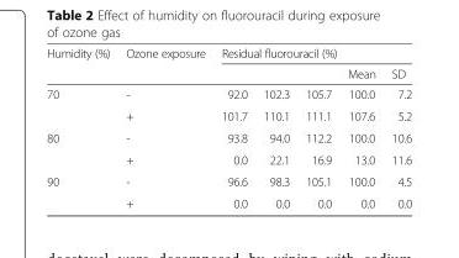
<table><thead><tr><td rowspan="2">Humidity (%)</td><td rowspan="2">Ozone exposure</td><td colspan="5">Residual fluorouracil (%)</td></tr><tr><td></td><td></td><td></td><td>Mean</td><td>SD</td></tr></thead><tbody><tr><td rowspan="2">70</td><td>-</td><td>92.0</td><td>102.3</td><td>105.7</td><td>100.0</td><td>7.2</td></tr><tr><td>+</td><td>101.7</td><td>110.1</td><td>111.1</td><td>107.6</td><td>5.2</td></tr><tr><td rowspan="2">80</td><td>-</td><td>93.8</td><td>94.0</td><td>112.2</td><td>100.0</td><td>10.6</td></tr><tr><td>+</td><td>0.0</td><td>22.1</td><td>16.9</td><td>13.0</td><td>11.6</td></tr><tr><td rowspan="2">90</td><td>-</td><td>96.6</td><td>98.3</td><td>105.1</td><td>100.0</td><td>4.5</td></tr><tr><td>+</td><td>0.0</td><td>0.0</td><td>0.0</td><td>0.0</td><td>0.0</td></tr></tbody></table>